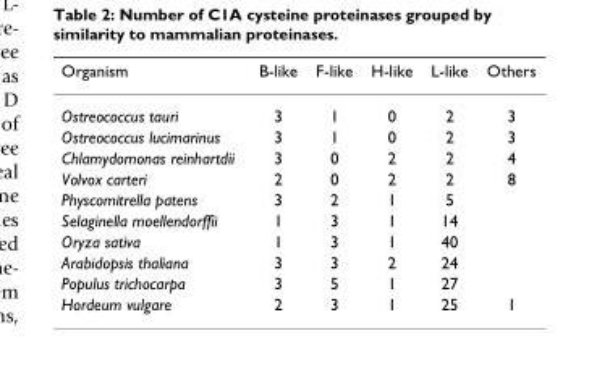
<table><thead><tr><td>Organism</td><td>B-like</td><td>F-like</td><td>H-like</td><td>L-like</td><td>Others</td></tr></thead><tbody><tr><td>Ostreococcus tauri</td><td>3</td><td>1</td><td>0</td><td>2</td><td>3</td></tr><tr><td>Ostreococcus lucimarinus</td><td>3</td><td>1</td><td>0</td><td>2</td><td>3</td></tr><tr><td>Chlamydomonas reinhartdii</td><td>3</td><td>0</td><td>2</td><td>2</td><td>4</td></tr><tr><td>Volvox carteri</td><td>2</td><td>0</td><td>2</td><td>2</td><td>8</td></tr><tr><td>Physcomitrella patens</td><td>3</td><td>2</td><td>1</td><td>5</td><td></td></tr><tr><td>Selaginella moellendorffii</td><td>1</td><td>3</td><td>1</td><td>14</td><td></td></tr><tr><td>Oryza sativa</td><td>1</td><td>3</td><td>1</td><td>40</td><td></td></tr><tr><td>Arabidopsis thaliana</td><td>3</td><td>3</td><td>2</td><td>24</td><td></td></tr><tr><td>Populus trichocarpa</td><td>3</td><td>5</td><td>1</td><td>27</td><td></td></tr><tr><td>Hordeum vulgare</td><td>2</td><td>3</td><td>1</td><td>25</td><td>1</td></tr></tbody></table>